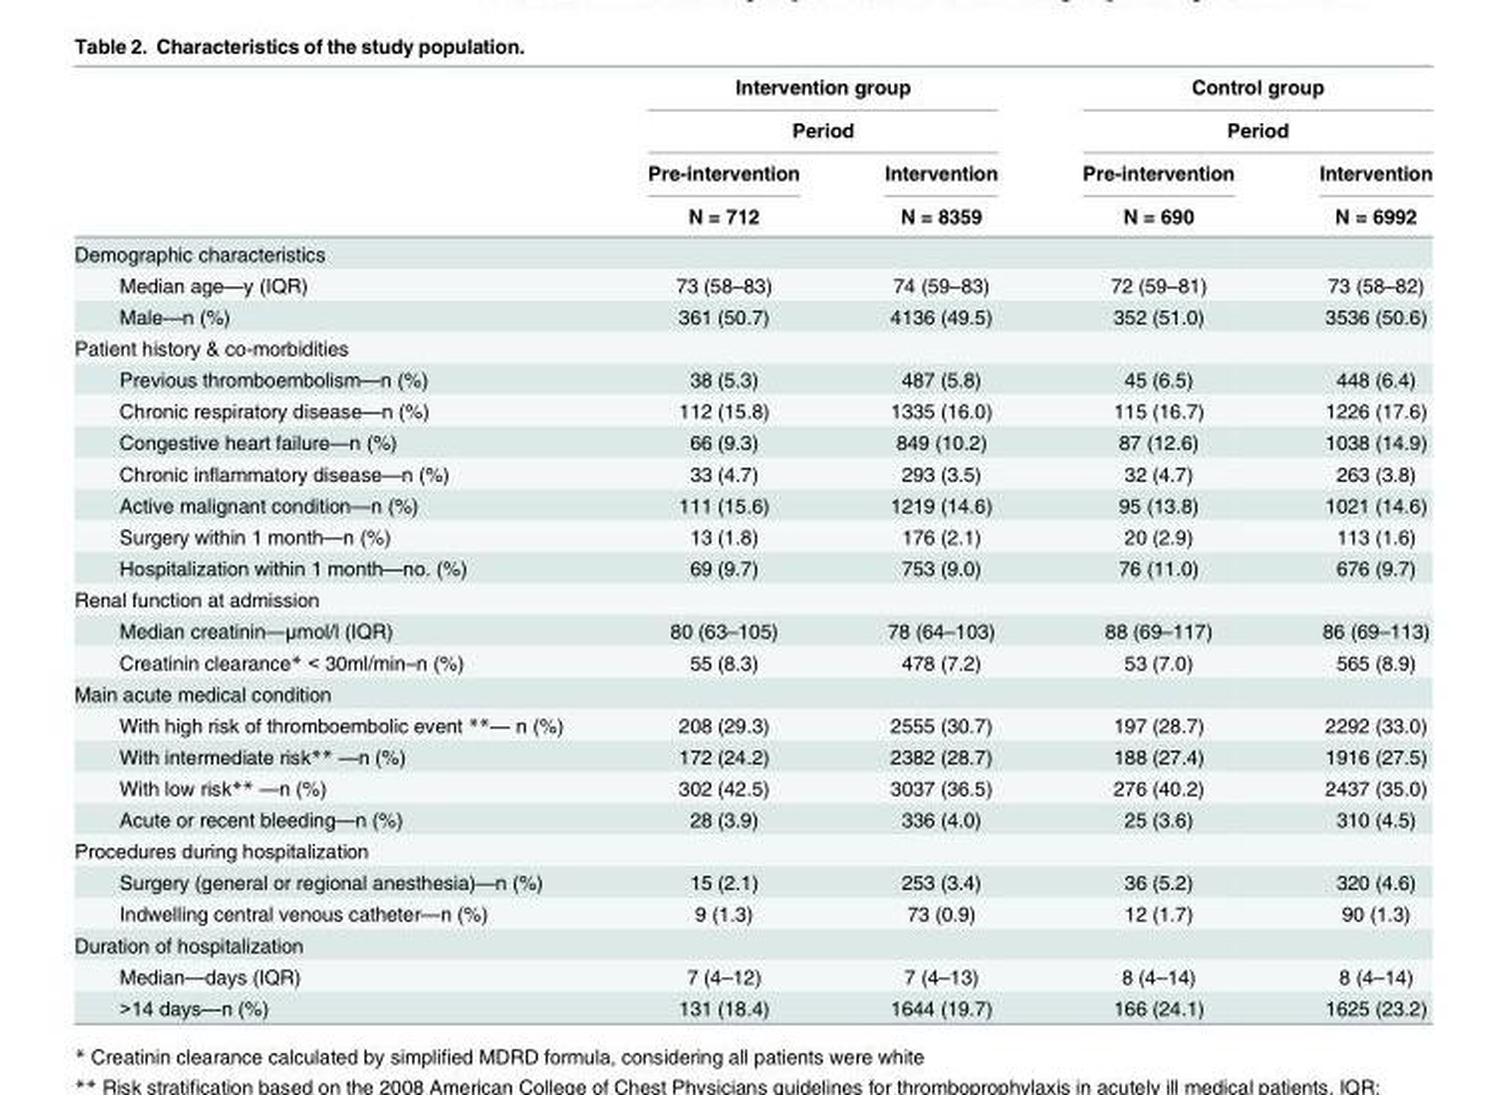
<table><thead><tr><td rowspan="4"></td><td rowspan="2" colspan="2">Intervention group Period</td><td rowspan="2" colspan="2">Control group Period</td></tr><tr></tr><tr><td rowspan="2">Pre-intervention N = 712</td><td rowspan="2">Intervention N = 8359</td><td rowspan="2">Pre-intervention N = 690</td><td rowspan="2">Intervention N = 6992</td></tr><tr></tr></thead><tbody><tr><td colspan="5">Demographic characteristics</td></tr><tr><td>Median age—y (IQR)</td><td>73 (58–83)</td><td>74 (59–83)</td><td>72 (59–81)</td><td>73 (58–82)</td></tr><tr><td>Male—n (%)</td><td>361 (50.7)</td><td>4136 (49.5)</td><td>352 (51.0)</td><td>3536 (50.6)</td></tr><tr><td colspan="5">Patient history &amp; co-morbidities</td></tr><tr><td>Previous thromboembolism—n (%)</td><td>38 (5.3)</td><td>487 (5.8)</td><td>45 (6.5)</td><td>448 (6.4)</td></tr><tr><td>Chronic respiratory disease—n (%)</td><td>112 (15.8)</td><td>1335 (16.0)</td><td>115 (16.7)</td><td>1226 (17.6)</td></tr><tr><td>Congestive heart failure—n (%)</td><td>66 (9.3)</td><td>849 (10.2)</td><td>87 (12.6)</td><td>1038 (14.9)</td></tr><tr><td>Chronic inflammatory disease—n (%)</td><td>33 (4.7)</td><td>293 (3.5)</td><td>32 (4.7)</td><td>263 (3.8)</td></tr><tr><td>Active malignant condition—n (%)</td><td>111 (15.6)</td><td>1219 (14.6)</td><td>95 (13.8)</td><td>1021 (14.6)</td></tr><tr><td>Surgery within 1 month—n (%)</td><td>13 (1.8)</td><td>176 (2.1)</td><td>20 (2.9)</td><td>113 (1.6)</td></tr><tr><td>Hospitalization within 1 month—no. (%)</td><td>69 (9.7)</td><td>753 (9.0)</td><td>76 (11.0)</td><td>676 (9.7)</td></tr><tr><td colspan="5">Renal function at admission</td></tr><tr><td>Median creatinin—μmol/l (IQR)</td><td>80 (63–105)</td><td>78 (64–103)</td><td>88 (69–117)</td><td>86 (69–113)</td></tr><tr><td>Creatinin clearance* &lt; 30ml/min–n (%)</td><td>55 (8.3)</td><td>478 (7.2)</td><td>53 (7.0)</td><td>565 (8.9)</td></tr><tr><td colspan="5">Main acute medical condition</td></tr><tr><td>With high risk of thromboembolic event **— n (%)</td><td>208 (29.3)</td><td>2555 (30.7)</td><td>197 (28.7)</td><td>2292 (33.0)</td></tr><tr><td>With intermediate risk** —n (%)</td><td>172 (24.2)</td><td>2382 (28.7)</td><td>188 (27.4)</td><td>1916 (27.5)</td></tr><tr><td>With low risk** —n (%)</td><td>302 (42.5)</td><td>3037 (36.5)</td><td>276 (40.2)</td><td>2437 (35.0)</td></tr><tr><td>Acute or recent bleeding—n (%)</td><td>28 (3.9)</td><td>336 (4.0)</td><td>25 (3.6)</td><td>310 (4.5)</td></tr><tr><td colspan="5">Procedures during hospitalization</td></tr><tr><td>Surgery (general or regional anesthesia)—n (%)</td><td>15 (2.1)</td><td>253 (3.4)</td><td>36 (5.2)</td><td>320 (4.6)</td></tr><tr><td>Indwelling central venous catheter—n (%)</td><td>9 (1.3)</td><td>73 (0.9)</td><td>12 (1.7)</td><td>90 (1.3)</td></tr><tr><td colspan="5">Duration of hospitalization</td></tr><tr><td>Median—days (IQR)</td><td>7 (4–12)</td><td>7 (4–13)</td><td>8 (4–14)</td><td>8 (4–14)</td></tr><tr><td>&gt;14 days—n (%)</td><td>131 (18.4)</td><td>1644 (19.7)</td><td>166 (24.1)</td><td>1625 (23.2)</td></tr></tbody></table>